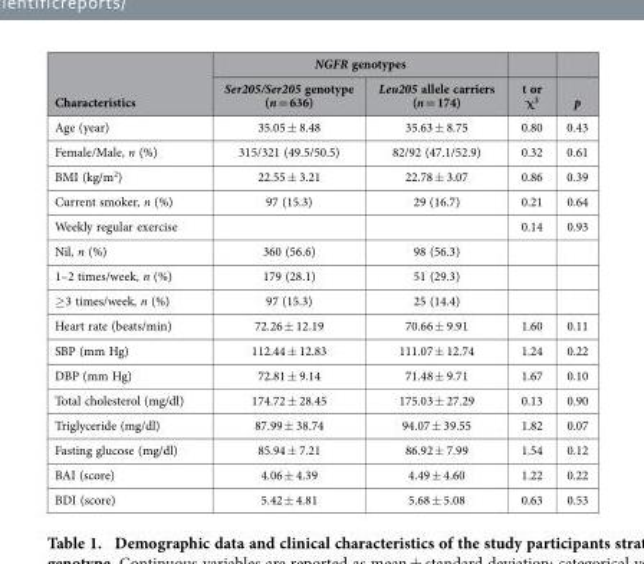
<table><thead><tr><td rowspan="2">Characteristics</td><td colspan="2">NGFR genotypes</td><td rowspan="2">t or χ<sup>2</sup></td><td rowspan="2">p</td></tr><tr><td>Ser205/Ser205 genotype (n = 636)</td><td>Leu205 allele carriers (n = 174)</td></tr></thead><tbody><tr><td>Age (year)</td><td>35.05 ± 8.48</td><td>35.63 ± 8.75</td><td>0.80</td><td>0.43</td></tr><tr><td>Female/Male, n (%)</td><td>315/321 (49.5/50.5)</td><td>82/92 (47.1/52.9)</td><td>0.32</td><td>0.61</td></tr><tr><td>BMI (kg/m<sup>2</sup>)</td><td>22.55 ± 3.21</td><td>22.78 ± 3.07</td><td>0.86</td><td>0.39</td></tr><tr><td>Current smoker, n (%)</td><td>97 (15.3)</td><td>29 (16.7)</td><td>0.21</td><td>0.64</td></tr><tr><td>Weekly regular exercise</td><td></td><td></td><td>0.14</td><td>0.93</td></tr><tr><td>Nil, n (%)</td><td>360 (56.6)</td><td>98 (56.3)</td><td></td><td></td></tr><tr><td>1–2 times/week, n (%)</td><td>179 (28.1)</td><td>51 (29.3)</td><td></td><td></td></tr><tr><td>≥ 3 times/week, n (%)</td><td>97 (15.3)</td><td>25 (14.4)</td><td></td><td></td></tr><tr><td>Heart rate (beats/min)</td><td>72.26 ± 12.19</td><td>70.66 ± 9.91</td><td>1.60</td><td>0.11</td></tr><tr><td>SBP (mm Hg)</td><td>112.44 ± 12.83</td><td>111.07 ± 12.74</td><td>1.24</td><td>0.22</td></tr><tr><td>DBP (mm Hg)</td><td>72.81 ± 9.14</td><td>71.48 ± 9.71</td><td>1.67</td><td>0.10</td></tr><tr><td>Total cholesterol (mg/dl)</td><td>174.72 ± 28.45</td><td>175.03 ± 27.29</td><td>0.13</td><td>0.90</td></tr><tr><td>Triglyceride (mg/dl)</td><td>87.99 ± 38.74</td><td>94.07 ± 39.55</td><td>1.82</td><td>0.07</td></tr><tr><td>Fasting glucose (mg/dl)</td><td>85.94 ± 7.21</td><td>86.92 ± 7.99</td><td>1.54</td><td>0.12</td></tr><tr><td>BAI (score)</td><td>4.06 ± 4.39</td><td>4.49 ± 4.60</td><td>1.22</td><td>0.22</td></tr><tr><td>BDI (score)</td><td>5.42 ± 4.81</td><td>5.68 ± 5.08</td><td>0.63</td><td>0.53</td></tr></tbody></table>